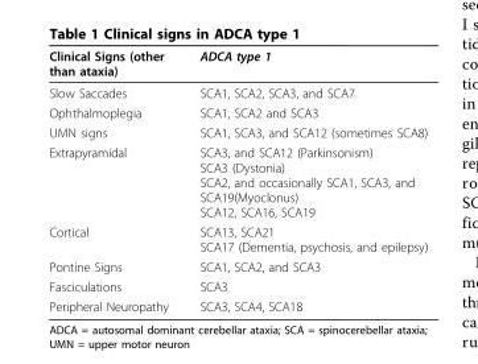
<table><thead><tr><td>Clinical Signs (other than ataxia)</td><td>ADCA type 1</td></tr></thead><tbody><tr><td>Slow Saccades</td><td>SCA1, SCA2, SCA3, and SCA7</td></tr><tr><td>Ophthalmoplegia</td><td>SCA1, SCA2 and SCA3</td></tr><tr><td>UMN signs</td><td>SCA1, SCA3, and SCA12 (sometimes SCA8)</td></tr><tr><td>Extrapyramidal</td><td>SCA3, and SCA12 (Parkinsonism) SCA3 (Dystonia) SCA2, and occasionally SCA1, SCA3, and SCA19(Myoclonus) SCA12, SCA16, SCA19</td></tr><tr><td>Cortical</td><td>SCA13, SCA21 SCA17 (Dementia, psychosis, and epilepsy)</td></tr><tr><td>Pontine Signs</td><td>SCA1, SCA2, and SCA3</td></tr><tr><td>Fasciculations</td><td>SCA3</td></tr><tr><td>Peripheral Neuropathy</td><td>SCA3, SCA4, SCA18</td></tr></tbody></table>